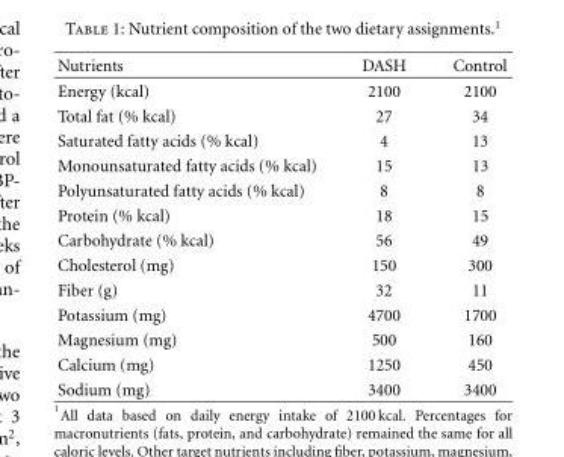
<table><thead><tr><td>Nutrients</td><td>DASH</td><td>Control</td></tr></thead><tbody><tr><td>Energy (kcal)</td><td>2100</td><td>2100</td></tr><tr><td>Total fat (% kcal)</td><td>27</td><td>34</td></tr><tr><td>Saturated fatty acids (% kcal)</td><td>4</td><td>13</td></tr><tr><td>Monounsaturated fatty acids (% kcal)</td><td>15</td><td>13</td></tr><tr><td>Polyunsaturated fatty acids (% kcal)</td><td>8</td><td>8</td></tr><tr><td>Protein (% kcal)</td><td>18</td><td>15</td></tr><tr><td>Carbohydrate (% kcal)</td><td>56</td><td>49</td></tr><tr><td>Cholesterol (mg)</td><td>150</td><td>300</td></tr><tr><td>Fiber (g)</td><td>32</td><td>11</td></tr><tr><td>Potassium (mg)</td><td>4700</td><td>1700</td></tr><tr><td>Magnesium (mg)</td><td>500</td><td>160</td></tr><tr><td>Calcium (mg)</td><td>1250</td><td>450</td></tr><tr><td>Sodium (mg)</td><td>3400</td><td>3400</td></tr></tbody></table>